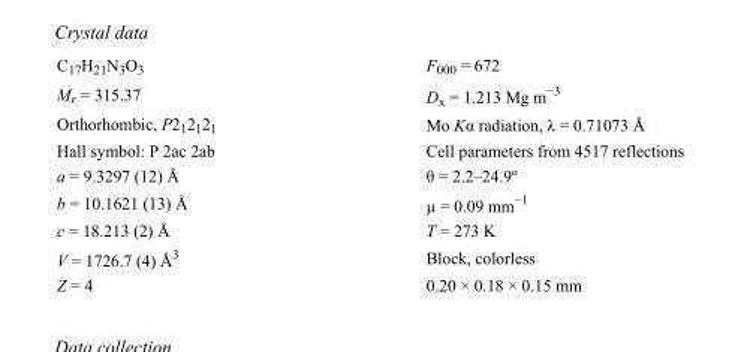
<table><tbody><tr><td>C<sub>17</sub>H<sub>21</sub>N<sub>3</sub>O<sub>3</sub></td><td>F000 = 672</td></tr><tr><td>M<sub>r</sub> = 315.37</td><td>D<sub>x</sub> = 1.213 Mg m<sup>−3</sup></td></tr><tr><td>Orthorhombic, P2<sub>1</sub>2<sub>1</sub>2<sub>1</sub></td><td>Mo Kα radiation, λ = 0.71073 Å</td></tr><tr><td>Hall symbol: P 2ac 2ab</td><td>Cell parameters from 4517 reflections</td></tr><tr><td>a = 9.3297 (12) Å</td><td>θ = 2.2–24.9º</td></tr><tr><td>b = 10.1621 (13) Å</td><td>µ = 0.09 mm<sup>−1</sup></td></tr><tr><td>c = 18.213 (2) Å</td><td>T = 273 K</td></tr><tr><td>V = 1726.7 (4) Å<sup>3</sup></td><td>Block, colorless</td></tr><tr><td>Z = 4</td><td>0.20 × 0.18 × 0.15 mm</td></tr></tbody></table>